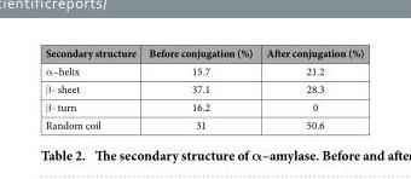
<table><thead><tr><td>Secondary structure</td><td>Before conjugation (%)</td><td>After conjugation (%)</td></tr></thead><tbody><tr><td>α –helix</td><td>15.7</td><td>21.2</td></tr><tr><td>β - sheet</td><td>37.1</td><td>28.3</td></tr><tr><td>β - turn</td><td>16.2</td><td>0</td></tr><tr><td>Random coil</td><td>31</td><td>50.6</td></tr></tbody></table>